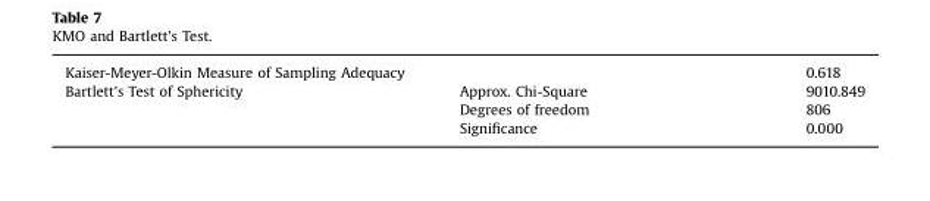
<table><tbody><tr><td colspan="2">Kaiser-Meyer-Olkin Measure of Sampling Adequacy</td><td>0.618</td></tr><tr><td rowspan="3">Bartlett&#x27;s Test of Sphericity</td><td>Approx. Chi-Square</td><td>9010.849</td></tr><tr><td>Degrees of freedom</td><td>806</td></tr><tr><td>Significance</td><td>0.000</td></tr></tbody></table>